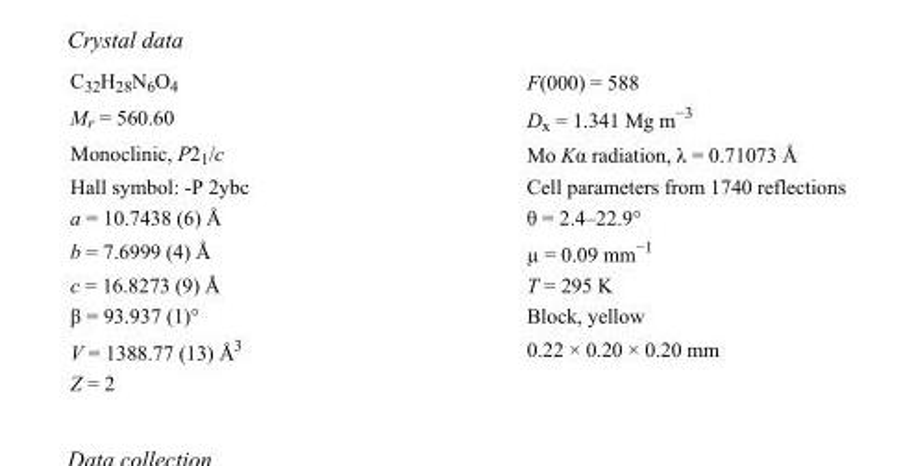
<table><tbody><tr><td>C<sub>32</sub>H<sub>28</sub>N<sub>6</sub>O<sub>4</sub></td><td>F(000) = 588</td></tr><tr><td>M<sub>r</sub> = 560.60</td><td>D<sub>x</sub> = 1.341 Mg m<sup>−3</sup></td></tr><tr><td>Monoclinic, P2<sub>1</sub>/c</td><td>Mo Kα radiation, λ = 0.71073 Å</td></tr><tr><td>Hall symbol: -P 2ybc</td><td>Cell parameters from 1740 reflections</td></tr><tr><td>a = 10.7438 (6) Å</td><td>θ = 2.4–22.9°</td></tr><tr><td>b = 7.6999 (4) Å</td><td>µ = 0.09 mm<sup>−1</sup></td></tr><tr><td>c = 16.8273 (9) Å</td><td>T = 295 K</td></tr><tr><td>β = 93.937 (1)°</td><td>Block, yellow</td></tr><tr><td>V = 1388.77 (13) Å<sup>3</sup></td><td>0.22 × 0.20 × 0.20 mm</td></tr><tr><td>Z = 2</td><td></td></tr></tbody></table>